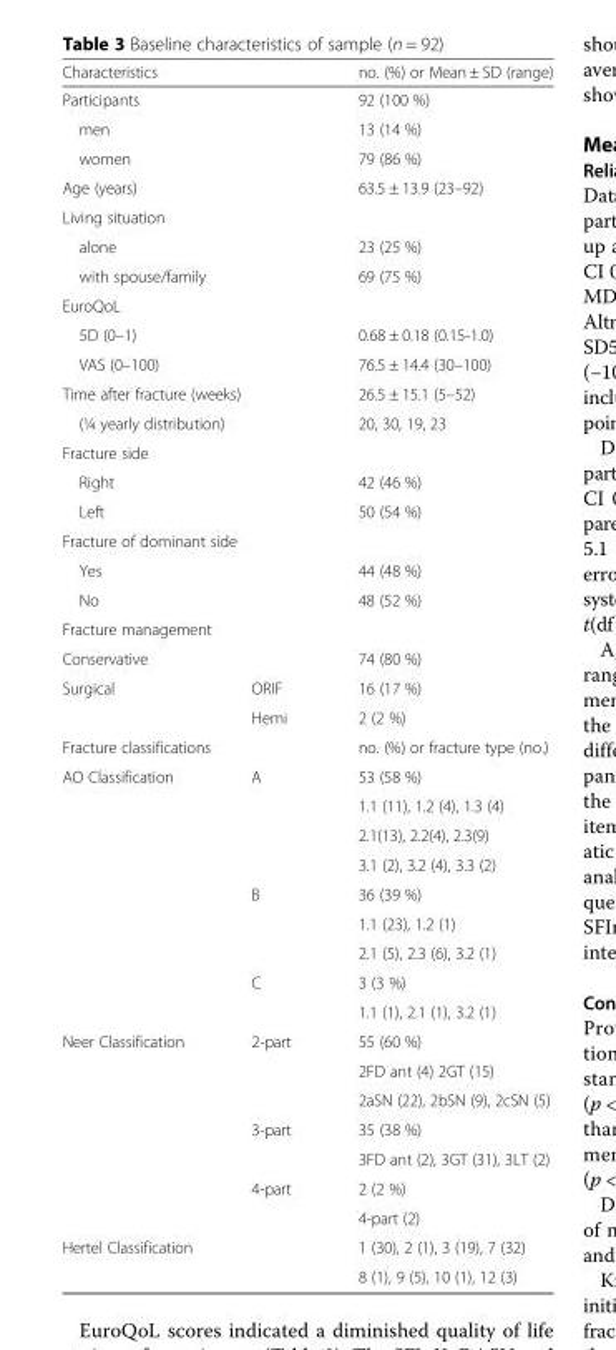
<table><thead><tr><td colspan="2">Characteristics</td><td>no. (%) or Mean ± SD (range)</td></tr></thead><tbody><tr><td colspan="2">Participants</td><td>92 (100 %)</td></tr><tr><td colspan="2">men</td><td>13 (14 %)</td></tr><tr><td colspan="2">women</td><td>79 (86 %)</td></tr><tr><td colspan="2">Age (years)</td><td>63.5 ± 13.9 (23–92)</td></tr><tr><td colspan="3">Living situation</td></tr><tr><td colspan="2">alone</td><td>23 (25 %)</td></tr><tr><td colspan="2">with spouse/family</td><td>69 (75 %)</td></tr><tr><td colspan="3">EuroQoL</td></tr><tr><td colspan="2">5D (0–1)</td><td>0.68 ± 0.18 (0.15-1.0)</td></tr><tr><td colspan="2">VAS (0–100)</td><td>76.5 ± 14.4 (30–100)</td></tr><tr><td colspan="2">Time after fracture (weeks)</td><td>26.5 ± 15.1 (5–52)</td></tr><tr><td colspan="2">(¼ yearly distribution)</td><td>20, 30, 19, 23</td></tr><tr><td colspan="3">Fracture side</td></tr><tr><td colspan="2">Right</td><td>42 (46 %)</td></tr><tr><td colspan="2">Left</td><td>50 (54 %)</td></tr><tr><td colspan="3">Fracture of dominant side</td></tr><tr><td colspan="2">Yes</td><td>44 (48 %)</td></tr><tr><td colspan="2">No</td><td>48 (52 %)</td></tr><tr><td colspan="3">Fracture management</td></tr><tr><td colspan="2">Conservative</td><td>74 (80 %)</td></tr><tr><td rowspan="2">Surgical</td><td>ORIF</td><td>16 (17 %)</td></tr><tr><td>Hemi</td><td>2 (2 %)</td></tr><tr><td colspan="2">Fracture classifications</td><td>no. (%) or fracture type (no.)</td></tr><tr><td rowspan="9">AO Classification</td><td rowspan="4">A</td><td>53 (58 %)</td></tr><tr><td>1.1 (11), 1.2 (4), 1.3 (4)</td></tr><tr><td>2.1(13), 2.2(4), 2.3(9)</td></tr><tr><td>3.1 (2), 3.2 (4), 3.3 (2)</td></tr><tr><td rowspan="3">B</td><td>36 (39 %)</td></tr><tr><td>1.1 (23), 1.2 (1)</td></tr><tr><td>2.1 (5), 2.3 (6), 3.2 (1)</td></tr><tr><td rowspan="2">C</td><td>3 (3 %)</td></tr><tr><td>1.1 (1), 2.1 (1), 3.2 (1)</td></tr><tr><td rowspan="7">Neer Classification</td><td rowspan="3">2-part</td><td>55 (60 %)</td></tr><tr><td>2FD ant (4) 2GT (15)</td></tr><tr><td>2aSN (22), 2bSN (9), 2cSN (5)</td></tr><tr><td rowspan="2">3-part</td><td>35 (38 %)</td></tr><tr><td>3FD ant (2), 3GT (31), 3LT (2)</td></tr><tr><td rowspan="2">4-part</td><td>2 (2 %)</td></tr><tr><td>4-part (2)</td></tr><tr><td rowspan="2" colspan="2">Hertel Classification</td><td>1 (30), 2 (1), 3 (19), 7 (32)</td></tr><tr><td>8 (1), 9 (5), 10 (1), 12 (3)</td></tr></tbody></table>